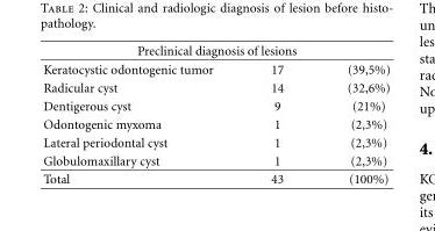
<table><thead><tr><td colspan="3">Preclinical diagnosis of lesions</td></tr><tr><td>Keratocystic odontogenic tumor</td><td>17</td><td>(39,5%)</td></tr></thead><tbody><tr><td>Radicular cyst</td><td>14</td><td>(32,6%)</td></tr><tr><td>Dentigerous cyst</td><td>9</td><td>(21%)</td></tr><tr><td>Odontogenic myxoma</td><td>1</td><td>(2,3%)</td></tr><tr><td>Lateral periodontal cyst</td><td>1</td><td>(2,3%)</td></tr><tr><td>Globulomaxillary cyst</td><td>1</td><td>(2,3%)</td></tr><tr><td>Total</td><td>43</td><td>(100%)</td></tr></tbody></table>